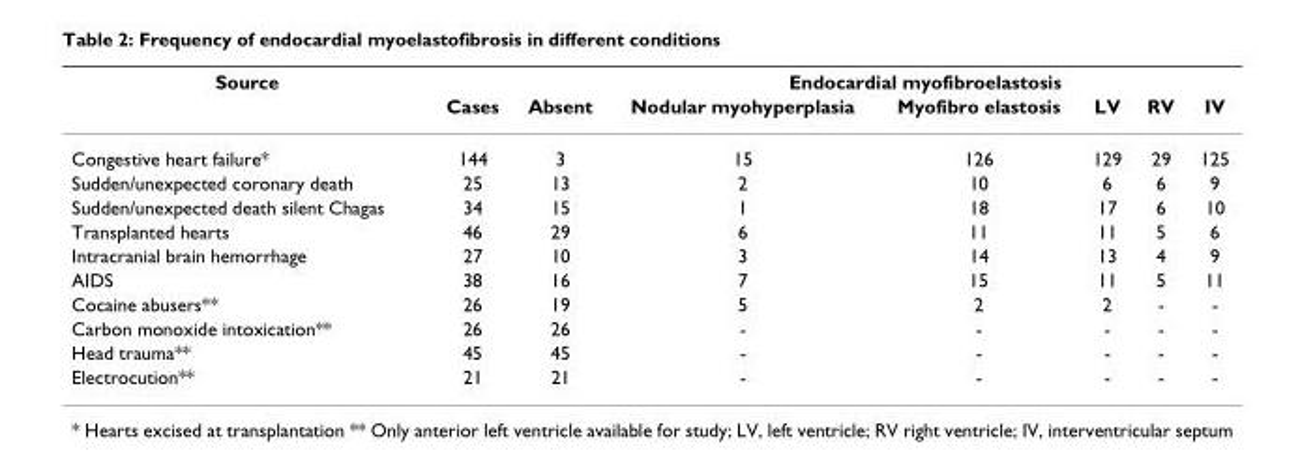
<table><thead><tr><td rowspan="2">Source</td><td rowspan="2">Cases</td><td rowspan="2">Absent</td><td colspan="5">Endocardial myofibroelastosis</td></tr><tr><td>Nodular myohyperplasia</td><td>Myofibro elastosis</td><td>LV</td><td>RV</td><td>IV</td></tr></thead><tbody><tr><td>Congestive heart failure*</td><td>144</td><td>3</td><td>15</td><td>126</td><td>129</td><td>29</td><td>125</td></tr><tr><td>Sudden/unexpected coronary death</td><td>25</td><td>13</td><td>2</td><td>10</td><td>6</td><td>6</td><td>9</td></tr><tr><td>Sudden/unexpected death silent Chagas</td><td>34</td><td>15</td><td>1</td><td>18</td><td>17</td><td>6</td><td>10</td></tr><tr><td>Transplanted hearts</td><td>46</td><td>29</td><td>6</td><td>11</td><td>11</td><td>5</td><td>6</td></tr><tr><td>Intracranial brain hemorrhage</td><td>27</td><td>10</td><td>3</td><td>14</td><td>13</td><td>4</td><td>9</td></tr><tr><td>AIDS</td><td>38</td><td>16</td><td>7</td><td>15</td><td>11</td><td>5</td><td>11</td></tr><tr><td>Cocaine abusers**</td><td>26</td><td>19</td><td>5</td><td>2</td><td>2</td><td>-</td><td>-</td></tr><tr><td>Carbon monoxide intoxication**</td><td>26</td><td>26</td><td>-</td><td>-</td><td>-</td><td>-</td><td>-</td></tr><tr><td>Head trauma**</td><td>45</td><td>45</td><td>-</td><td>-</td><td>-</td><td>-</td><td>-</td></tr><tr><td>Electrocution**</td><td>21</td><td>21</td><td>-</td><td>-</td><td>-</td><td>-</td><td>-</td></tr></tbody></table>